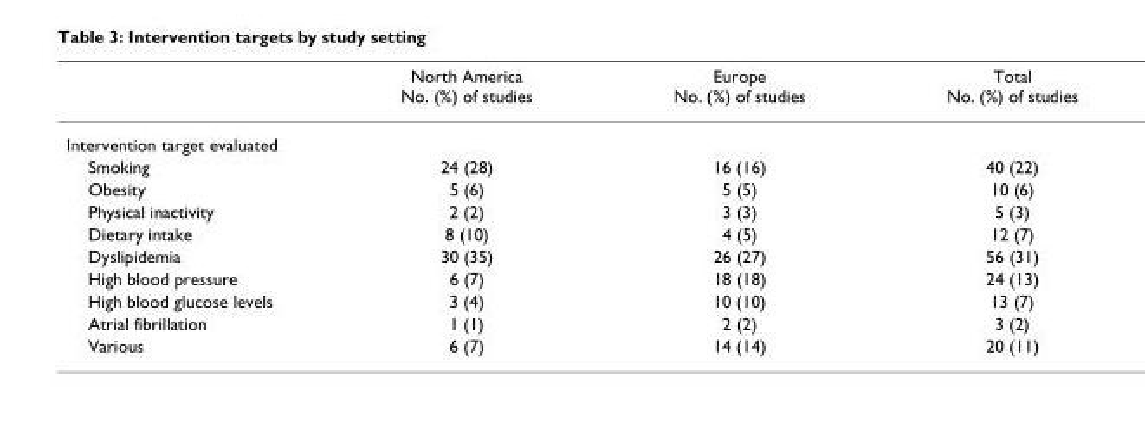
<table><thead><tr><td></td><td>North America No. (%) of studies</td><td>Europe No. (%) of studies</td><td>Total No. (%) of studies</td></tr></thead><tbody><tr><td colspan="4">Intervention target evaluated</td></tr><tr><td>Smoking</td><td>24 (28)</td><td>16 (16)</td><td>40 (22)</td></tr><tr><td>Obesity</td><td>5 (6)</td><td>5 (5)</td><td>10 (6)</td></tr><tr><td>Physical inactivity</td><td>2 (2)</td><td>3 (3)</td><td>5 (3)</td></tr><tr><td>Dietary intake</td><td>8 (10)</td><td>4 (5)</td><td>12 (7)</td></tr><tr><td>Dyslipidemia</td><td>30 (35)</td><td>26 (27)</td><td>56 (31)</td></tr><tr><td>High blood pressure</td><td>6 (7)</td><td>18 (18)</td><td>24 (13)</td></tr><tr><td>High blood glucose levels</td><td>3 (4)</td><td>10 (10)</td><td>13 (7)</td></tr><tr><td>Atrial fibrillation</td><td>1 (1)</td><td>2 (2)</td><td>3 (2)</td></tr><tr><td>Various</td><td>6 (7)</td><td>14 (14)</td><td>20 (11)</td></tr></tbody></table>